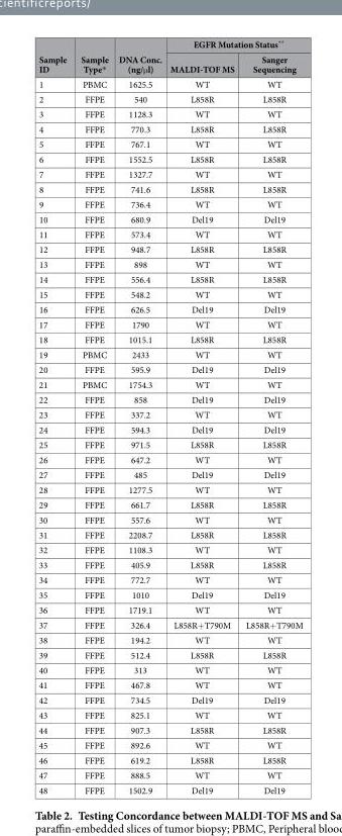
<table><thead><tr><td rowspan="2">Sample ID</td><td rowspan="2">Sample Type*</td><td rowspan="2">DNA Conc. (ng/μ l)</td><td colspan="2">EGFR Mutation Status**</td></tr><tr><td>MALDI-TOF MS</td><td>Sanger Sequencing</td></tr></thead><tbody><tr><td>1</td><td>PBMC</td><td>1625.5</td><td>WT</td><td>WT</td></tr><tr><td>2</td><td>FFPE</td><td>540</td><td>L858R</td><td>L858R</td></tr><tr><td>3</td><td>FFPE</td><td>1128.3</td><td>WT</td><td>WT</td></tr><tr><td>4</td><td>FFPE</td><td>770.3</td><td>L858R</td><td>L858R</td></tr><tr><td>5</td><td>FFPE</td><td>767.1</td><td>WT</td><td>WT</td></tr><tr><td>6</td><td>FFPE</td><td>1552.5</td><td>L858R</td><td>L858R</td></tr><tr><td>7</td><td>FFPE</td><td>1327.7</td><td>WT</td><td>WT</td></tr><tr><td>8</td><td>FFPE</td><td>741.6</td><td>L858R</td><td>L858R</td></tr><tr><td>9</td><td>FFPE</td><td>736.4</td><td>WT</td><td>WT</td></tr><tr><td>10</td><td>FFPE</td><td>680.9</td><td>Del19</td><td>Del19</td></tr><tr><td>11</td><td>FFPE</td><td>573.4</td><td>WT</td><td>WT</td></tr><tr><td>12</td><td>FFPE</td><td>948.7</td><td>L858R</td><td>L858R</td></tr><tr><td>13</td><td>FFPE</td><td>898</td><td>WT</td><td>WT</td></tr><tr><td>14</td><td>FFPE</td><td>556.4</td><td>L858R</td><td>L858R</td></tr><tr><td>15</td><td>FFPE</td><td>548.2</td><td>WT</td><td>WT</td></tr><tr><td>16</td><td>FFPE</td><td>626.5</td><td>Del19</td><td>Del19</td></tr><tr><td>17</td><td>FFPE</td><td>1790</td><td>WT</td><td>WT</td></tr><tr><td>18</td><td>FFPE</td><td>1015.1</td><td>L858R</td><td>L858R</td></tr><tr><td>19</td><td>PBMC</td><td>2433</td><td>WT</td><td>WT</td></tr><tr><td>20</td><td>FFPE</td><td>595.9</td><td>Del19</td><td>Del19</td></tr><tr><td>21</td><td>PBMC</td><td>1754.3</td><td>WT</td><td>WT</td></tr><tr><td>22</td><td>FFPE</td><td>858</td><td>Del19</td><td>Del19</td></tr><tr><td>23</td><td>FFPE</td><td>337.2</td><td>WT</td><td>WT</td></tr><tr><td>24</td><td>FFPE</td><td>594.3</td><td>Del19</td><td>Del19</td></tr><tr><td>25</td><td>FFPE</td><td>971.5</td><td>L858R</td><td>L858R</td></tr><tr><td>26</td><td>FFPE</td><td>647.2</td><td>WT</td><td>WT</td></tr><tr><td>27</td><td>FFPE</td><td>485</td><td>Del19</td><td>Del19</td></tr><tr><td>28</td><td>FFPE</td><td>1277.5</td><td>WT</td><td>WT</td></tr><tr><td>29</td><td>FFPE</td><td>661.7</td><td>L858R</td><td>L858R</td></tr><tr><td>30</td><td>FFPE</td><td>557.6</td><td>WT</td><td>WT</td></tr><tr><td>31</td><td>FFPE</td><td>2208.7</td><td>L858R</td><td>L858R</td></tr><tr><td>32</td><td>FFPE</td><td>1108.3</td><td>WT</td><td>WT</td></tr><tr><td>33</td><td>FFPE</td><td>405.9</td><td>L858R</td><td>L858R</td></tr><tr><td>34</td><td>FFPE</td><td>772.7</td><td>WT</td><td>WT</td></tr><tr><td>35</td><td>FFPE</td><td>1010</td><td>Del19</td><td>Del19</td></tr><tr><td>36</td><td>FFPE</td><td>1719.1</td><td>WT</td><td>WT</td></tr><tr><td>37</td><td>FFPE</td><td>326.4</td><td>L858R+ T790M</td><td>L858R+ T790M</td></tr><tr><td>38</td><td>FFPE</td><td>194.2</td><td>WT</td><td>WT</td></tr><tr><td>39</td><td>FFPE</td><td>512.4</td><td>L858R</td><td>L858R</td></tr><tr><td>40</td><td>FFPE</td><td>313</td><td>WT</td><td>WT</td></tr><tr><td>41</td><td>FFPE</td><td>467.8</td><td>WT</td><td>WT</td></tr><tr><td>42</td><td>FFPE</td><td>734.5</td><td>Del19</td><td>Del19</td></tr><tr><td>43</td><td>FFPE</td><td>825.1</td><td>WT</td><td>WT</td></tr><tr><td>44</td><td>FFPE</td><td>907.3</td><td>L858R</td><td>L858R</td></tr><tr><td>45</td><td>FFPE</td><td>892.6</td><td>WT</td><td>WT</td></tr><tr><td>46</td><td>FFPE</td><td>619.2</td><td>L858R</td><td>L858R</td></tr><tr><td>47</td><td>FFPE</td><td>888.5</td><td>WT</td><td>WT</td></tr><tr><td>48</td><td>FFPE</td><td>1502.9</td><td>Del19</td><td>Del19</td></tr></tbody></table>